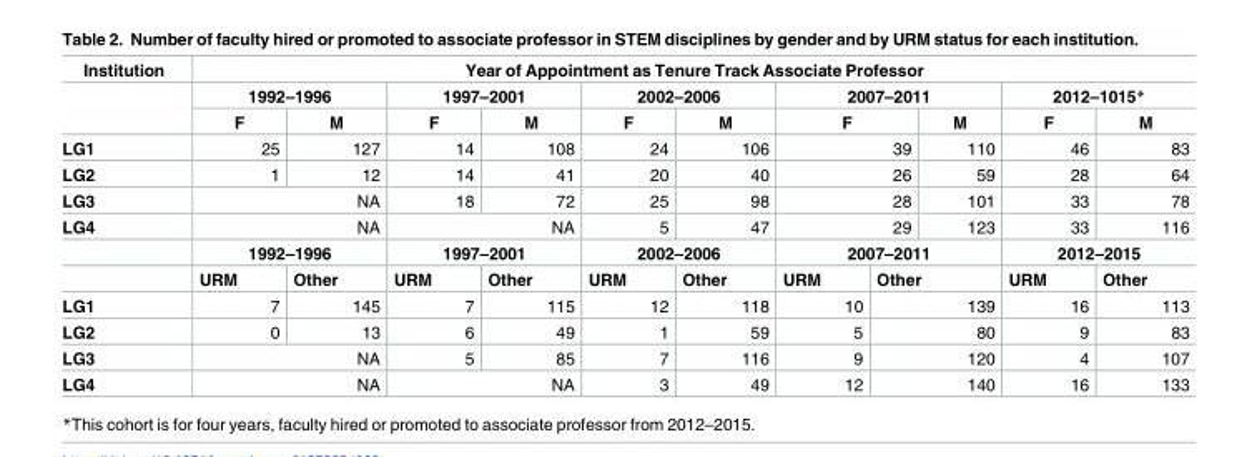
<table><thead><tr><td>Institution</td><td colspan="11">Year of Appointment as Tenure Track Associate Professor</td></tr></thead><tbody><tr><td rowspan="2"></td><td colspan="2">1992–1996</td><td colspan="2">1997–2001</td><td colspan="2">2002–2006</td><td colspan="3">2007–2011</td><td colspan="2">2012–1015*</td></tr><tr><td>F</td><td>M</td><td>F</td><td>M</td><td>F</td><td>M</td><td colspan="2">F</td><td>M</td><td>F</td><td>M</td></tr><tr><td>LG1</td><td>25</td><td>127</td><td>14</td><td>108</td><td>24</td><td>106</td><td colspan="2">39</td><td>110</td><td>46</td><td>83</td></tr><tr><td>LG2</td><td>1</td><td>12</td><td>14</td><td>41</td><td>20</td><td>40</td><td colspan="2">26</td><td>59</td><td>28</td><td>64</td></tr><tr><td>LG3</td><td colspan="2">NA</td><td>18</td><td>72</td><td>25</td><td>98</td><td colspan="2">28</td><td>101</td><td>33</td><td>78</td></tr><tr><td rowspan="3">LG4</td><td colspan="2">NA</td><td colspan="2">NA</td><td>5</td><td>47</td><td colspan="2">29</td><td>123</td><td>33</td><td>116</td></tr><tr><td colspan="2">1992–1996</td><td colspan="2">1997–2001</td><td colspan="2">2002–2006</td><td colspan="3">2007–2011</td><td colspan="2">2012–2015</td></tr><tr><td>URM</td><td>Other</td><td>URM</td><td>Other</td><td>URM</td><td>Other</td><td>URM</td><td colspan="2">Other</td><td>URM</td><td>Other</td></tr><tr><td>LG1</td><td>7</td><td>145</td><td>7</td><td>115</td><td>12</td><td>118</td><td>10</td><td colspan="2">139</td><td>16</td><td>113</td></tr><tr><td>LG2</td><td>0</td><td>13</td><td>6</td><td>49</td><td>1</td><td>59</td><td>5</td><td colspan="2">80</td><td>9</td><td>83</td></tr><tr><td>LG3</td><td colspan="2">NA</td><td>5</td><td>85</td><td>7</td><td>116</td><td>9</td><td colspan="2">120</td><td>4</td><td>107</td></tr><tr><td>LG4</td><td colspan="2">NA</td><td colspan="2">NA</td><td>3</td><td>49</td><td>12</td><td colspan="2">140</td><td>16</td><td>133</td></tr></tbody></table>